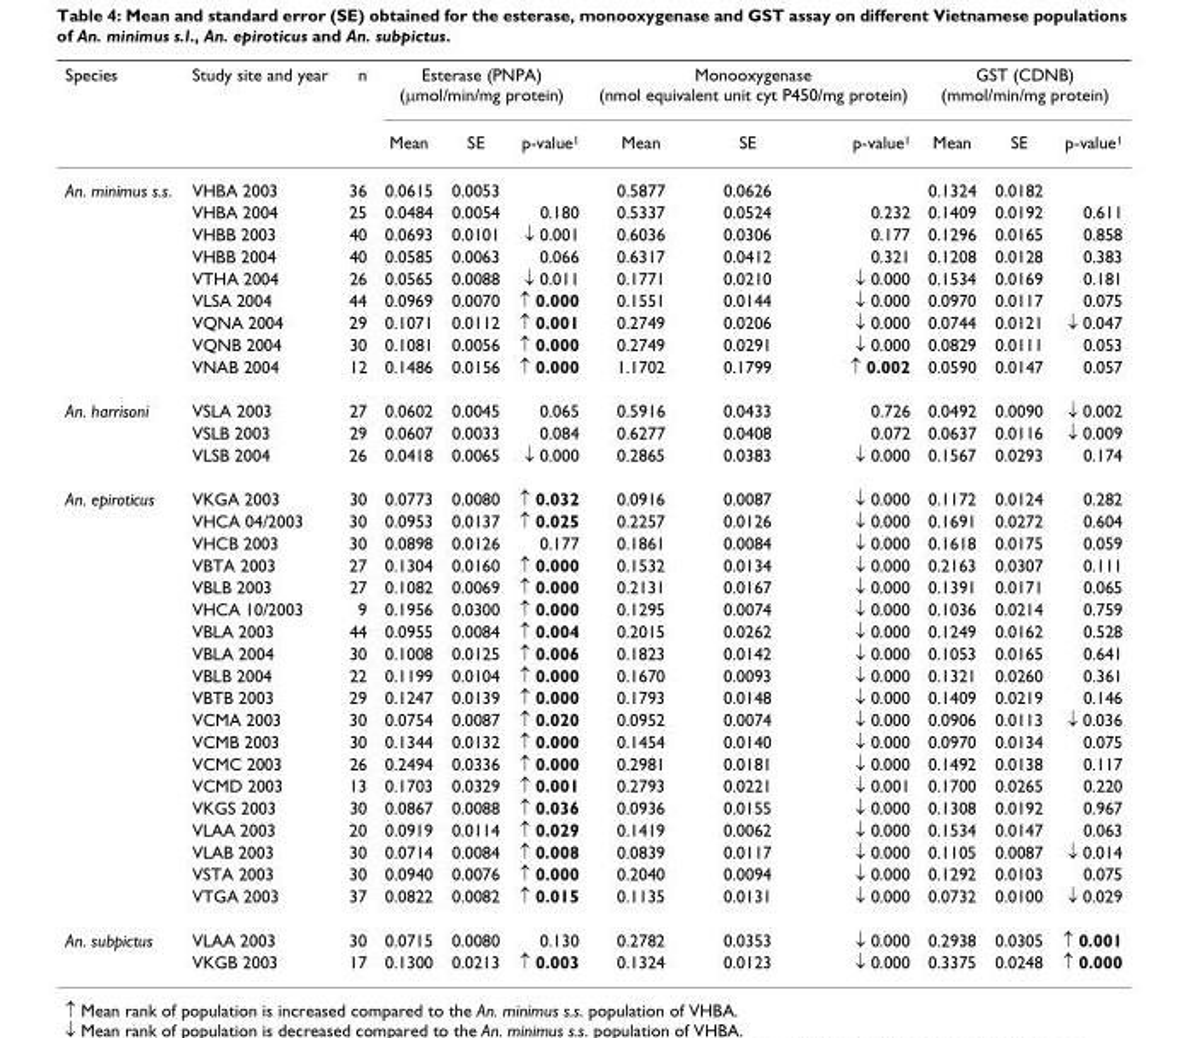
<table><thead><tr><td rowspan="2">Species</td><td rowspan="2">Study site and year</td><td rowspan="2">n</td><td colspan="3">Esterase (PNPA) (μmol/min/mg protein)</td><td colspan="3">Monooxygenase (nmol equivalent unit cyt P450/mg protein)</td><td colspan="3">GST (CDNB) (mmol/min/mg protein)</td></tr><tr><td>Mean</td><td>SE</td><td>p-value<sup>1</sup></td><td>Mean</td><td>SE</td><td>p-value<sup>1</sup></td><td>Mean</td><td>SE</td><td>p-value<sup>1</sup></td></tr></thead><tbody><tr><td rowspan="9">An. minimus s.s.</td><td>VHBA 2003</td><td>36</td><td>0.0615</td><td>0.0053</td><td></td><td>0.5877</td><td>0.0626</td><td></td><td>0.1324</td><td>0.0182</td><td></td></tr><tr><td>VHBA 2004</td><td>25</td><td>0.0484</td><td>0.0054</td><td>0.180</td><td>0.5337</td><td>0.0524</td><td>0.232</td><td>0.1409</td><td>0.0192</td><td>0.611</td></tr><tr><td>VHBB 2003</td><td>40</td><td>0.0693</td><td>0.0101</td><td>↓ 0.001</td><td>0.6036</td><td>0.0306</td><td>0.177</td><td>0.1296</td><td>0.0165</td><td>0.858</td></tr><tr><td>VHBB 2004</td><td>40</td><td>0.0585</td><td>0.0063</td><td>0.066</td><td>0.6317</td><td>0.0412</td><td>0.321</td><td>0.1208</td><td>0.0128</td><td>0.383</td></tr><tr><td>VTHA 2004</td><td>26</td><td>0.0565</td><td>0.0088</td><td>↓ 0.011</td><td>0.1771</td><td>0.0210</td><td>↓ 0.000</td><td>0.1534</td><td>0.0169</td><td>0.181</td></tr><tr><td>VLSA 2004</td><td>44</td><td>0.0969</td><td>0.0070</td><td>↑ 0.000</td><td>0.1551</td><td>0.0144</td><td>↓ 0.000</td><td>0.0970</td><td>0.0117</td><td>0.075</td></tr><tr><td>VQNA 2004</td><td>29</td><td>0.1071</td><td>0.0112</td><td>↑ 0.001</td><td>0.2749</td><td>0.0206</td><td>↓ 0.000</td><td>0.0744</td><td>0.0121</td><td>↓ 0.047</td></tr><tr><td>VQNB 2004</td><td>30</td><td>0.1081</td><td>0.0056</td><td>↑ 0.000</td><td>0.2749</td><td>0.0291</td><td>↓ 0.000</td><td>0.0829</td><td>0.0111</td><td>0.053</td></tr><tr><td>VNAB 2004</td><td>12</td><td>0.1486</td><td>0.0156</td><td>↑ 0.000</td><td>1.1702</td><td>0.1799</td><td>↑ 0.002</td><td>0.0590</td><td>0.0147</td><td>0.057</td></tr><tr><td rowspan="3">An. harrisoni</td><td>VSLA 2003</td><td>27</td><td>0.0602</td><td>0.0045</td><td>0.065</td><td>0.5916</td><td>0.0433</td><td>0.726</td><td>0.0492</td><td>0.0090</td><td>↓ 0.002</td></tr><tr><td>VSLB 2003</td><td>29</td><td>0.0607</td><td>0.0033</td><td>0.084</td><td>0.6277</td><td>0.0408</td><td>0.072</td><td>0.0637</td><td>0.0116</td><td>↓ 0.009</td></tr><tr><td>VLSB 2004</td><td>26</td><td>0.0418</td><td>0.0065</td><td>↓ 0.000</td><td>0.2865</td><td>0.0383</td><td>↓ 0.000</td><td>0.1567</td><td>0.0293</td><td>0.174</td></tr><tr><td rowspan="19">An. epiroticus</td><td>VKGA 2003</td><td>30</td><td>0.0773</td><td>0.0080</td><td>↑ 0.032</td><td>0.0916</td><td>0.0087</td><td>↓ 0.000</td><td>0.1172</td><td>0.0124</td><td>0.282</td></tr><tr><td>VHCA 04/2003</td><td>30</td><td>0.0953</td><td>0.0137</td><td>↑ 0.025</td><td>0.2257</td><td>0.0126</td><td>↓ 0.000</td><td>0.1691</td><td>0.0272</td><td>0.604</td></tr><tr><td>VHCB 2003</td><td>30</td><td>0.0898</td><td>0.0126</td><td>0.177</td><td>0.1861</td><td>0.0084</td><td>↓ 0.000</td><td>0.1618</td><td>0.0175</td><td>0.059</td></tr><tr><td>VBTA 2003</td><td>27</td><td>0.1304</td><td>0.0160</td><td>↑ 0.000</td><td>0.1532</td><td>0.0134</td><td>↓ 0.000</td><td>0.2163</td><td>0.0307</td><td>0.111</td></tr><tr><td>VBLB 2003</td><td>27</td><td>0.1082</td><td>0.0069</td><td>↑ 0.000</td><td>0.2131</td><td>0.0167</td><td>↓ 0.000</td><td>0.1391</td><td>0.0171</td><td>0.065</td></tr><tr><td>VHCA 10/2003</td><td>9</td><td>0.1956</td><td>0.0300</td><td>↑ 0.000</td><td>0.1295</td><td>0.0074</td><td>↓ 0.000</td><td>0.1036</td><td>0.0214</td><td>0.759</td></tr><tr><td>VBLA 2003</td><td>44</td><td>0.0955</td><td>0.0084</td><td>↑ 0.004</td><td>0.2015</td><td>0.0262</td><td>↓ 0.000</td><td>0.1249</td><td>0.0162</td><td>0.528</td></tr><tr><td>VBLA 2004</td><td>30</td><td>0.1008</td><td>0.0125</td><td>↑ 0.006</td><td>0.1823</td><td>0.0142</td><td>↓ 0.000</td><td>0.1053</td><td>0.0165</td><td>0.641</td></tr><tr><td>VBLB 2004</td><td>22</td><td>0.1199</td><td>0.0104</td><td>↑ 0.000</td><td>0.1670</td><td>0.0093</td><td>↓ 0.000</td><td>0.1321</td><td>0.0260</td><td>0.361</td></tr><tr><td>VBTB 2003</td><td>29</td><td>0.1247</td><td>0.0139</td><td>↑ 0.000</td><td>0.1793</td><td>0.0148</td><td>↓ 0.000</td><td>0.1409</td><td>0.0219</td><td>0.146</td></tr><tr><td>VCMA 2003</td><td>30</td><td>0.0754</td><td>0.0087</td><td>↑ 0.020</td><td>0.0952</td><td>0.0074</td><td>↓ 0.000</td><td>0.0906</td><td>0.0113</td><td>↓ 0.036</td></tr><tr><td>VCMB 2003</td><td>30</td><td>0.1344</td><td>0.0132</td><td>↑ 0.000</td><td>0.1454</td><td>0.0140</td><td>↓ 0.000</td><td>0.0970</td><td>0.0134</td><td>0.075</td></tr><tr><td>VCMC 2003</td><td>26</td><td>0.2494</td><td>0.0336</td><td>↑ 0.000</td><td>0.2981</td><td>0.0181</td><td>↓ 0.000</td><td>0.1492</td><td>0.0138</td><td>0.117</td></tr><tr><td>VCMD 2003</td><td>13</td><td>0.1703</td><td>0.0329</td><td>↑ 0.001</td><td>0.2793</td><td>0.0221</td><td>↓ 0.001</td><td>0.1700</td><td>0.0265</td><td>0.220</td></tr><tr><td>VKGS 2003</td><td>30</td><td>0.0867</td><td>0.0088</td><td>↑ 0.036</td><td>0.0936</td><td>0.0155</td><td>↓ 0.000</td><td>0.1308</td><td>0.0192</td><td>0.967</td></tr><tr><td>VLAA 2003</td><td>20</td><td>0.0919</td><td>0.0114</td><td>↑ 0.029</td><td>0.1419</td><td>0.0062</td><td>↓ 0.000</td><td>0.1534</td><td>0.0147</td><td>0.063</td></tr><tr><td>VLAB 2003</td><td>30</td><td>0.0714</td><td>0.0084</td><td>↑ 0.008</td><td>0.0839</td><td>0.0117</td><td>↓ 0.000</td><td>0.1105</td><td>0.0087</td><td>↓ 0.014</td></tr><tr><td>VSTA 2003</td><td>30</td><td>0.0940</td><td>0.0076</td><td>↑ 0.000</td><td>0.2040</td><td>0.0094</td><td>↓ 0.000</td><td>0.1292</td><td>0.0103</td><td>0.075</td></tr><tr><td>VTGA 2003</td><td>37</td><td>0.0822</td><td>0.0082</td><td>↑ 0.015</td><td>0.1135</td><td>0.0131</td><td>↓ 0.000</td><td>0.0732</td><td>0.0100</td><td>↓ 0.029</td></tr><tr><td rowspan="2">An. subpictus</td><td>VLAA 2003</td><td>30</td><td>0.0715</td><td>0.0080</td><td>0.130</td><td>0.2782</td><td>0.0353</td><td>↓ 0.000</td><td>0.2938</td><td>0.0305</td><td>↑ 0.001</td></tr><tr><td>VKGB 2003</td><td>17</td><td>0.1300</td><td>0.0213</td><td>↑ 0.003</td><td>0.1324</td><td>0.0123</td><td>↓ 0.000</td><td>0.3375</td><td>0.0248</td><td>↑ 0.000</td></tr></tbody></table>